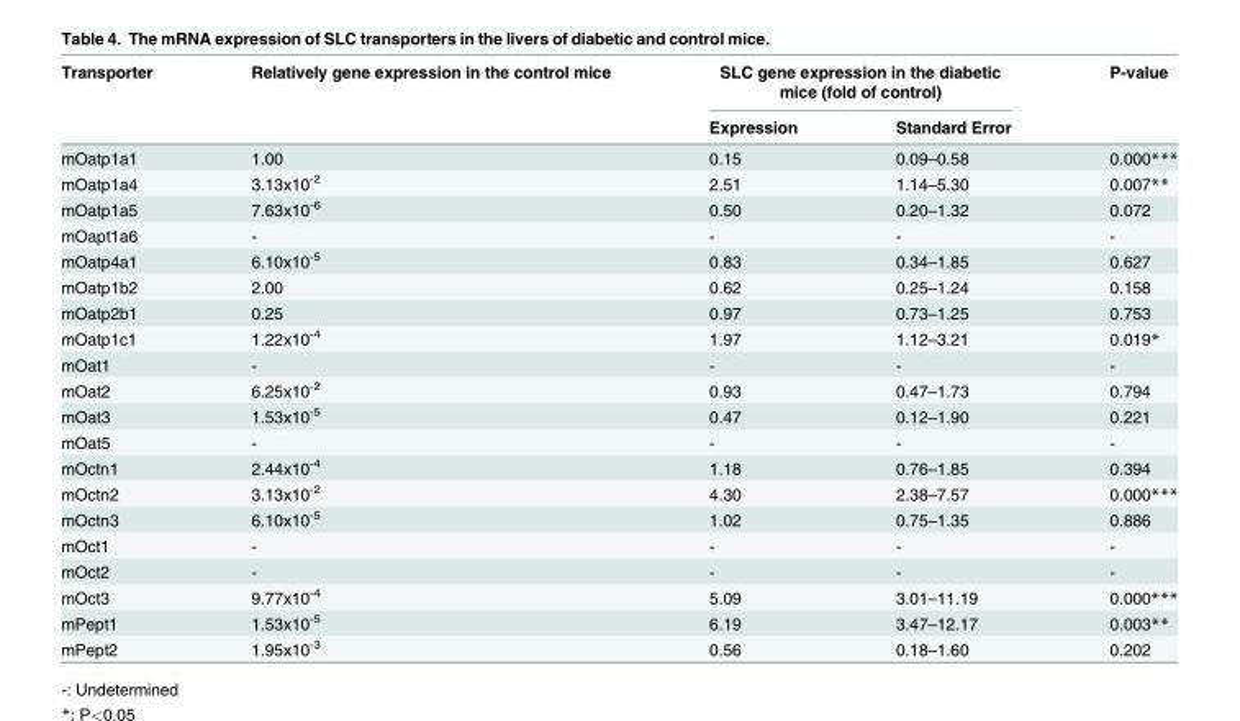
<table><thead><tr><td rowspan="2">Transporter</td><td rowspan="2">Relatively gene expression in the control mice</td><td colspan="2">SLC gene expression in the diabetic mice (fold of control)</td><td rowspan="2">P-value</td></tr><tr><td>Expression</td><td>Standard Error</td></tr></thead><tbody><tr><td>mOatp1a1</td><td>1.00</td><td>0.15</td><td>0.09–0.58</td><td>0.000***</td></tr><tr><td>mOatp1a4</td><td>3.13x10<sup>-2</sup></td><td>2.51</td><td>1.14–5.30</td><td>0.007**</td></tr><tr><td>mOatp1a5</td><td>7.63x10<sup>-6</sup></td><td>0.50</td><td>0.20–1.32</td><td>0.072</td></tr><tr><td>mOapt1a6</td><td>-</td><td>-</td><td>-</td><td>-</td></tr><tr><td>mOatp4a1</td><td>6.10x10<sup>-5</sup></td><td>0.83</td><td>0.34–1.85</td><td>0.627</td></tr><tr><td>mOatp1b2</td><td>2.00</td><td>0.62</td><td>0.25–1.24</td><td>0.158</td></tr><tr><td>mOatp2b1</td><td>0.25</td><td>0.97</td><td>0.73–1.25</td><td>0.753</td></tr><tr><td>mOatp1c1</td><td>1.22x10<sup>-4</sup></td><td>1.97</td><td>1.12–3.21</td><td>0.019*</td></tr><tr><td>mOat1</td><td>-</td><td>-</td><td>-</td><td>-</td></tr><tr><td>mOat2</td><td>6.25x10<sup>-2</sup></td><td>0.93</td><td>0.47–1.73</td><td>0.794</td></tr><tr><td>mOat3</td><td>1.53x10<sup>-5</sup></td><td>0.47</td><td>0.12–1.90</td><td>0.221</td></tr><tr><td>mOat5</td><td>-</td><td>-</td><td>-</td><td>-</td></tr><tr><td>mOctn1</td><td>2.44x10<sup>-4</sup></td><td>1.18</td><td>0.76–1.85</td><td>0.394</td></tr><tr><td>mOctn2</td><td>3.13x10<sup>-2</sup></td><td>4.30</td><td>2.38–7.57</td><td>0.000***</td></tr><tr><td>mOctn3</td><td>6.10x10<sup>-5</sup></td><td>1.02</td><td>0.75–1.35</td><td>0.886</td></tr><tr><td>mOct1</td><td>-</td><td>-</td><td>-</td><td>-</td></tr><tr><td>mOct2</td><td>-</td><td>-</td><td>-</td><td>-</td></tr><tr><td>mOct3</td><td>9.77x10<sup>-4</sup></td><td>5.09</td><td>3.01–11.19</td><td>0.000***</td></tr><tr><td>mPept1</td><td>1.53x10<sup>-5</sup></td><td>6.19</td><td>3.47–12.17</td><td>0.003**</td></tr><tr><td>mPept2</td><td>1.95x10<sup>-3</sup></td><td>0.56</td><td>0.18–1.60</td><td>0.202</td></tr></tbody></table>